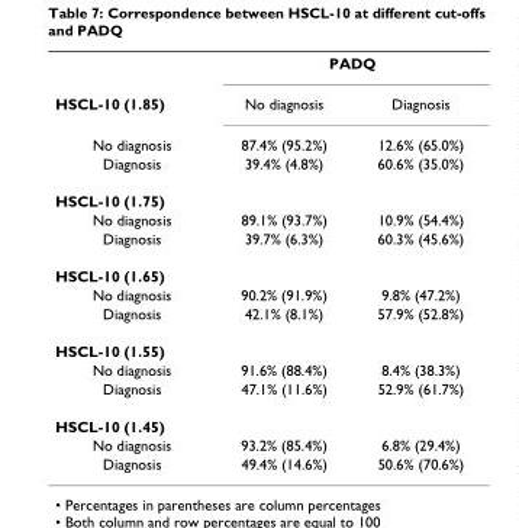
<table><thead><tr><td rowspan="2">HSCL-10 (1.85)</td><td colspan="2">PADQ</td></tr><tr><td>No diagnosis</td><td>Diagnosis</td></tr></thead><tbody><tr><td>No diagnosis</td><td>87.4% (95.2%)</td><td>12.6% (65.0%)</td></tr><tr><td>Diagnosis</td><td>39.4% (4.8%)</td><td>60.6% (35.0%)</td></tr><tr><td colspan="3">HSCL-10 (1.75)</td></tr><tr><td>No diagnosis</td><td>89.1% (93.7%)</td><td>10.9% (54.4%)</td></tr><tr><td>Diagnosis</td><td>39.7% (6.3%)</td><td>60.3% (45.6%)</td></tr><tr><td colspan="3">HSCL-10 (1.65)</td></tr><tr><td>No diagnosis</td><td>90.2% (91.9%)</td><td>9.8% (47.2%)</td></tr><tr><td>Diagnosis</td><td>42.1% (8.1%)</td><td>57.9% (52.8%)</td></tr><tr><td colspan="3">HSCL-10 (1.55)</td></tr><tr><td>No diagnosis</td><td>91.6% (88.4%)</td><td>8.4% (38.3%)</td></tr><tr><td>Diagnosis</td><td>47.1% (11.6%)</td><td>52.9% (61.7%)</td></tr><tr><td colspan="3">HSCL-10 (1.45)</td></tr><tr><td>No diagnosis</td><td>93.2% (85.4%)</td><td>6.8% (29.4%)</td></tr><tr><td>Diagnosis</td><td>49.4% (14.6%)</td><td>50.6% (70.6%)</td></tr></tbody></table>